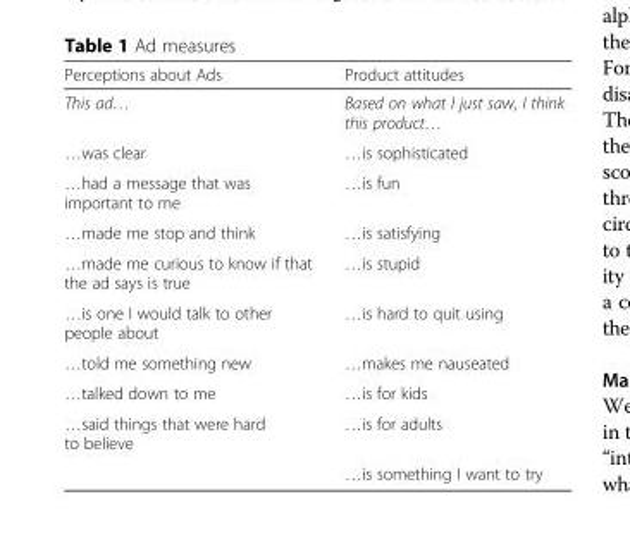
<table><thead><tr><td>Perceptions about Ads</td><td>Product attitudes</td></tr></thead><tbody><tr><td>This ad…</td><td>Based on what I just saw, I think this product…</td></tr><tr><td>…was clear</td><td>…is sophisticated</td></tr><tr><td>…had a message that was important to me</td><td>…is fun</td></tr><tr><td>…made me stop and think</td><td>…is satisfying</td></tr><tr><td>…made me curious to know if that the ad says is true</td><td>…is stupid</td></tr><tr><td>…is one I would talk to other people about</td><td>…is hard to quit using</td></tr><tr><td>…told me something new</td><td>…makes me nauseated</td></tr><tr><td>…talked down to me</td><td>…is for kids</td></tr><tr><td rowspan="2">…said things that were hard to believe</td><td>…is for adults</td></tr><tr><td>…is something I want to try</td></tr></tbody></table>